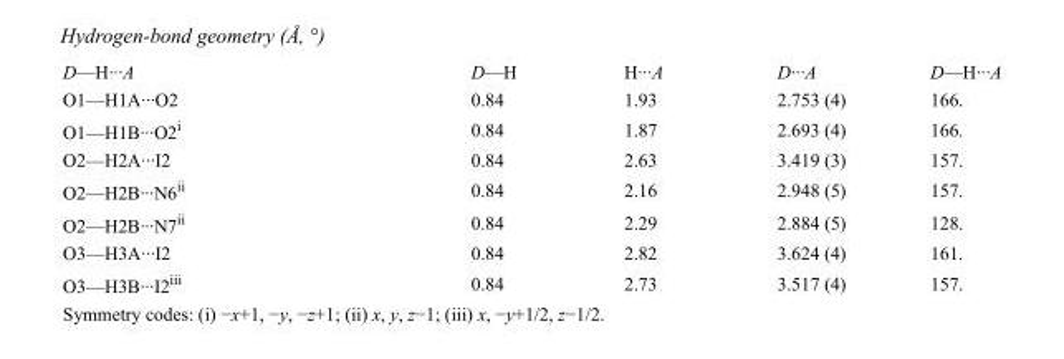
<table><tbody><tr><td>D—H···A</td><td>D—H</td><td>H···A</td><td>D···A</td><td>D—H···A</td></tr><tr><td>O1—H1A···O2</td><td>0.84</td><td>1.93</td><td>2.753 (4)</td><td>166.</td></tr><tr><td>O1—H1B···O2<sup>i</sup></td><td>0.84</td><td>1.87</td><td>2.693 (4)</td><td>166.</td></tr><tr><td>O2—H2A···I2</td><td>0.84</td><td>2.63</td><td>3.419 (3)</td><td>157.</td></tr><tr><td>O2—H2B···N6<sup>ii</sup></td><td>0.84</td><td>2.16</td><td>2.948 (5)</td><td>157.</td></tr><tr><td>O2—H2B···N7<sup>ii</sup></td><td>0.84</td><td>2.29</td><td>2.884 (5)</td><td>128.</td></tr><tr><td>O3—H3A···I2</td><td>0.84</td><td>2.82</td><td>3.624 (4)</td><td>161.</td></tr><tr><td>O3—H3B···I2<sup>iii</sup></td><td>0.84</td><td>2.73</td><td>3.517 (4)</td><td>157.</td></tr></tbody></table>